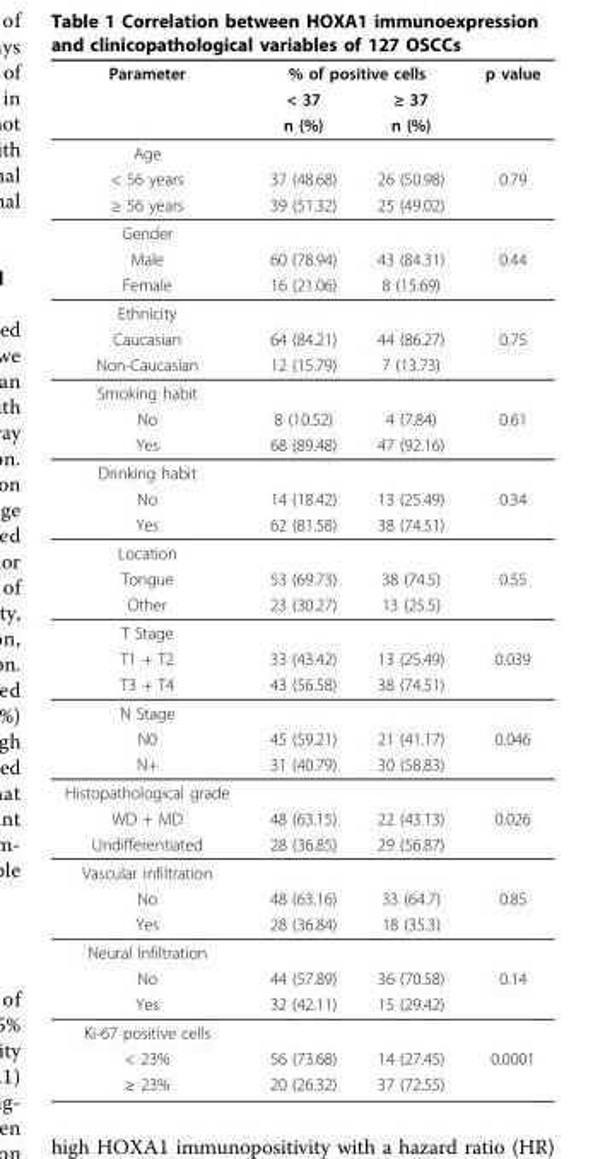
<table><thead><tr><td rowspan="3">Parameter</td><td colspan="2">% of positive cells</td><td rowspan="3">p value</td></tr><tr><td rowspan="2">&lt; 37 n (%)</td><td rowspan="2">≥ 37 n (%)</td></tr><tr></tr></thead><tbody><tr><td colspan="4">Age</td></tr><tr><td>&lt; 56 years</td><td>37 (48.68)</td><td>26 (50.98)</td><td>0.79</td></tr><tr><td>≥ 56 years</td><td>39 (51.32)</td><td>25 (49.02)</td><td></td></tr><tr><td colspan="4">Gender</td></tr><tr><td>Male</td><td>60 (78.94)</td><td>43 (84.31)</td><td>0.44</td></tr><tr><td>Female</td><td>16 (21.06)</td><td>8 (15.69)</td><td></td></tr><tr><td colspan="4">Ethnicity</td></tr><tr><td>Caucasian</td><td>64 (84.21)</td><td>44 (86.27)</td><td>0.75</td></tr><tr><td>Non-Caucasian</td><td>12 (15.79)</td><td>7 (13.73)</td><td></td></tr><tr><td colspan="4">Smoking habit</td></tr><tr><td>No</td><td>8 (10.52)</td><td>4 (7.84)</td><td>0.61</td></tr><tr><td>Yes</td><td>68 (89.48)</td><td>47 (92.16)</td><td></td></tr><tr><td colspan="4">Drinking habit</td></tr><tr><td>No</td><td>14 (18.42)</td><td>13 (25.49)</td><td>0.34</td></tr><tr><td>Yes</td><td>62 (81.58)</td><td>38 (74.51)</td><td></td></tr><tr><td colspan="4">Location</td></tr><tr><td>Tongue</td><td>53 (69.73)</td><td>38 (74.5)</td><td>0.55</td></tr><tr><td>Other</td><td>23 (30.27)</td><td>13 (25.5)</td><td></td></tr><tr><td colspan="4">T Stage</td></tr><tr><td>T1 + T2</td><td>33 (43.42)</td><td>13 (25.49)</td><td>0.039</td></tr><tr><td>T3 + T4</td><td>43 (56.58)</td><td>38 (74.51)</td><td></td></tr><tr><td colspan="4">N Stage</td></tr><tr><td>N0</td><td>45 (59.21)</td><td>21 (41.17)</td><td>0.046</td></tr><tr><td>N+</td><td>31 (40.79)</td><td>30 (58.83)</td><td></td></tr><tr><td colspan="4">Histopathological grade</td></tr><tr><td>WD + MD</td><td>48 (63.15)</td><td>22 (43.13)</td><td>0.026</td></tr><tr><td>Undifferentiated</td><td>28 (36.85)</td><td>29 (56.87)</td><td></td></tr><tr><td colspan="4">Vascular infiltration</td></tr><tr><td>No</td><td>48 (63.16)</td><td>33 (64.7)</td><td>0.85</td></tr><tr><td>Yes</td><td>28 (36.84)</td><td>18 (35.3)</td><td></td></tr><tr><td colspan="4">Neural Infiltration</td></tr><tr><td>No</td><td>44 (57.89)</td><td>36 (70.58)</td><td>0.14</td></tr><tr><td>Yes</td><td>32 (42.11)</td><td>15 (29.42)</td><td></td></tr><tr><td colspan="4">Ki-67 positive cells</td></tr><tr><td>&lt; 23%</td><td>56 (73.68)</td><td>14 (27.45)</td><td>0.0001</td></tr><tr><td>≥ 23%</td><td>20 (26.32)</td><td>37 (72.55)</td><td></td></tr></tbody></table>